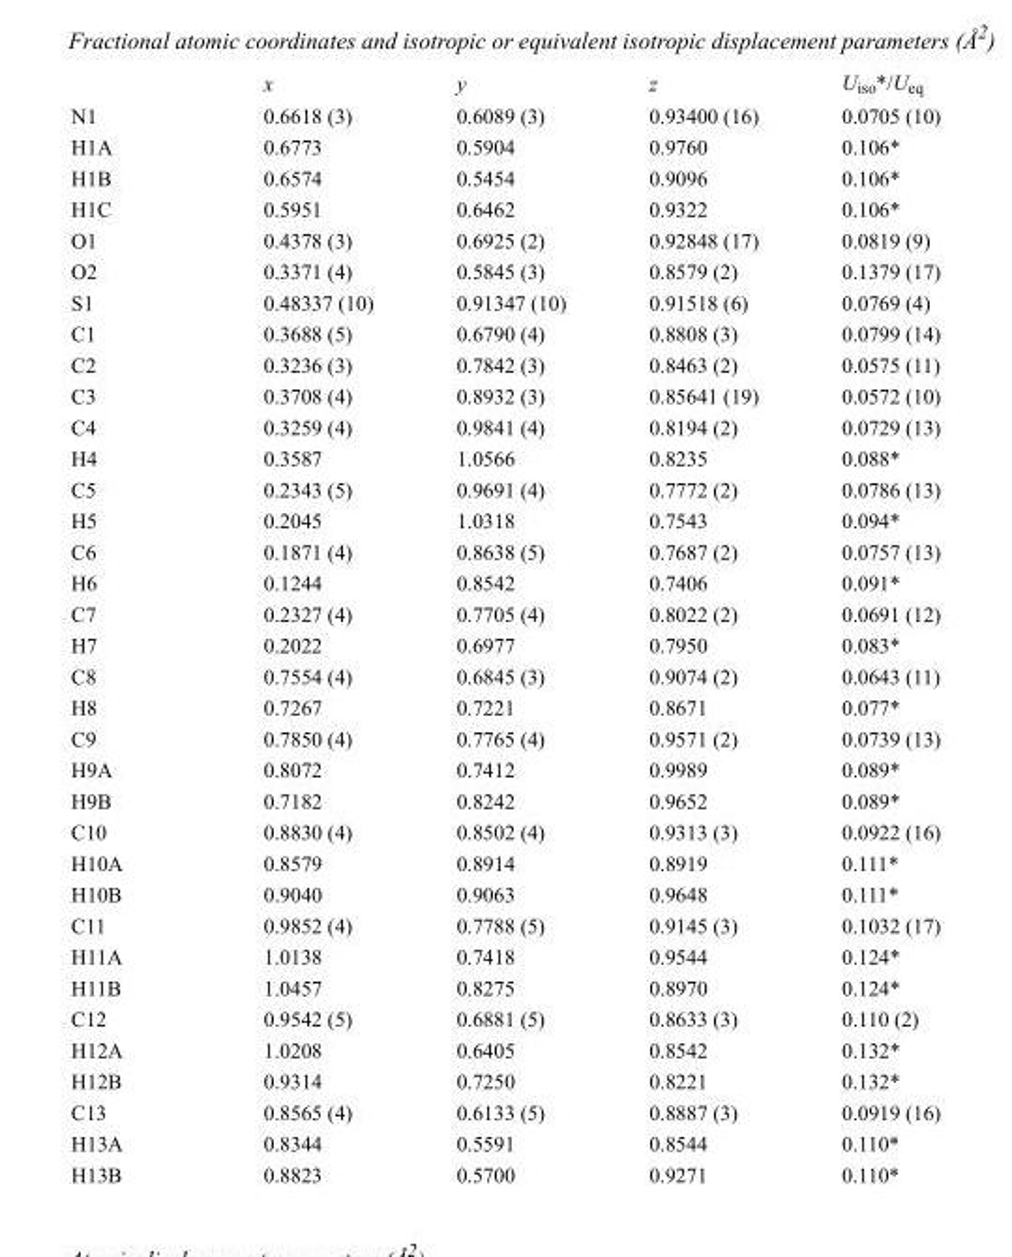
<table><thead><tr><td></td><td>x</td><td>y</td><td>z</td><td>U<sub>iso</sub>*/U<sub>eq</sub></td></tr></thead><tbody><tr><td>N1</td><td>0.6618 (3)</td><td>0.6089 (3)</td><td>0.93400 (16)</td><td>0.0705 (10)</td></tr><tr><td>H1A</td><td>0.6773</td><td>0.5904</td><td>0.9760</td><td>0.106*</td></tr><tr><td>H1B</td><td>0.6574</td><td>0.5454</td><td>0.9096</td><td>0.106*</td></tr><tr><td>H1C</td><td>0.5951</td><td>0.6462</td><td>0.9322</td><td>0.106*</td></tr><tr><td>O1</td><td>0.4378 (3)</td><td>0.6925 (2)</td><td>0.92848 (17)</td><td>0.0819 (9)</td></tr><tr><td>O2</td><td>0.3371 (4)</td><td>0.5845 (3)</td><td>0.8579 (2)</td><td>0.1379 (17)</td></tr><tr><td>S1</td><td>0.48337 (10)</td><td>0.91347 (10)</td><td>0.91518 (6)</td><td>0.0769 (4)</td></tr><tr><td>C1</td><td>0.3688 (5)</td><td>0.6790 (4)</td><td>0.8808 (3)</td><td>0.0799 (14)</td></tr><tr><td>C2</td><td>0.3236 (3)</td><td>0.7842 (3)</td><td>0.8463 (2)</td><td>0.0575 (11)</td></tr><tr><td>C3</td><td>0.3708 (4)</td><td>0.8932 (3)</td><td>0.85641 (19)</td><td>0.0572 (10)</td></tr><tr><td>C4</td><td>0.3259 (4)</td><td>0.9841 (4)</td><td>0.8194 (2)</td><td>0.0729 (13)</td></tr><tr><td>H4</td><td>0.3587</td><td>1.0566</td><td>0.8235</td><td>0.088*</td></tr><tr><td>C5</td><td>0.2343 (5)</td><td>0.9691 (4)</td><td>0.7772 (2)</td><td>0.0786 (13)</td></tr><tr><td>H5</td><td>0.2045</td><td>1.0318</td><td>0.7543</td><td>0.094*</td></tr><tr><td>C6</td><td>0.1871 (4)</td><td>0.8638 (5)</td><td>0.7687 (2)</td><td>0.0757 (13)</td></tr><tr><td>H6</td><td>0.1244</td><td>0.8542</td><td>0.7406</td><td>0.091*</td></tr><tr><td>C7</td><td>0.2327 (4)</td><td>0.7705 (4)</td><td>0.8022 (2)</td><td>0.0691 (12)</td></tr><tr><td>H7</td><td>0.2022</td><td>0.6977</td><td>0.7950</td><td>0.083*</td></tr><tr><td>C8</td><td>0.7554 (4)</td><td>0.6845 (3)</td><td>0.9074 (2)</td><td>0.0643 (11)</td></tr><tr><td>H8</td><td>0.7267</td><td>0.7221</td><td>0.8671</td><td>0.077*</td></tr><tr><td>C9</td><td>0.7850 (4)</td><td>0.7765 (4)</td><td>0.9571 (2)</td><td>0.0739 (13)</td></tr><tr><td>H9A</td><td>0.8072</td><td>0.7412</td><td>0.9989</td><td>0.089*</td></tr><tr><td>H9B</td><td>0.7182</td><td>0.8242</td><td>0.9652</td><td>0.089*</td></tr><tr><td>C10</td><td>0.8830 (4)</td><td>0.8502 (4)</td><td>0.9313 (3)</td><td>0.0922 (16)</td></tr><tr><td>H10A</td><td>0.8579</td><td>0.8914</td><td>0.8919</td><td>0.111*</td></tr><tr><td>H10B</td><td>0.9040</td><td>0.9063</td><td>0.9648</td><td>0.111*</td></tr><tr><td>C11</td><td>0.9852 (4)</td><td>0.7788 (5)</td><td>0.9145 (3)</td><td>0.1032 (17)</td></tr><tr><td>H11A</td><td>1.0138</td><td>0.7418</td><td>0.9544</td><td>0.124*</td></tr><tr><td>H11B</td><td>1.0457</td><td>0.8275</td><td>0.8970</td><td>0.124*</td></tr><tr><td>C12</td><td>0.9542 (5)</td><td>0.6881 (5)</td><td>0.8633 (3)</td><td>0.110 (2)</td></tr><tr><td>H12A</td><td>1.0208</td><td>0.6405</td><td>0.8542</td><td>0.132*</td></tr><tr><td>H12B</td><td>0.9314</td><td>0.7250</td><td>0.8221</td><td>0.132*</td></tr><tr><td>C13</td><td>0.8565 (4)</td><td>0.6133 (5)</td><td>0.8887 (3)</td><td>0.0919 (16)</td></tr><tr><td>H13A</td><td>0.8344</td><td>0.5591</td><td>0.8544</td><td>0.110*</td></tr><tr><td>H13B</td><td>0.8823</td><td>0.5700</td><td>0.9271</td><td>0.110*</td></tr></tbody></table>